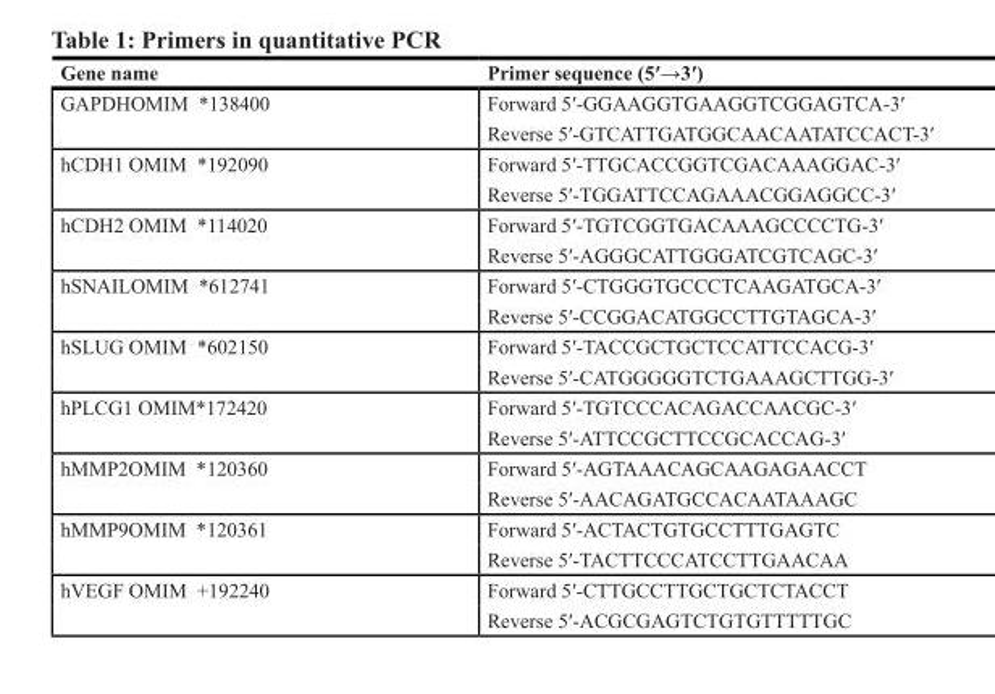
<table><thead><tr><td>Gene name</td><td>Primer sequence (5′→3′)</td></tr></thead><tbody><tr><td>GAPDHOMIM *138400</td><td>Forward 5′-GGAAGGTGAAGGTCGGAGTCA-3′ Reverse 5′-GTCATTGATGGCAACAATATCCACT-3′</td></tr><tr><td>hCDH1 OMIM *192090</td><td>Forward 5′-TTGCACCGGTCGACAAAGGAC-3′ Reverse 5′-TGGATTCCAGAAACGGAGGCC-3′</td></tr><tr><td>hCDH2 OMIM *114020</td><td>Forward 5′-TGTCGGTGACAAAGCCCCTG-3′ Reverse 5′-AGGGCATTGGGATCGTCAGC-3′</td></tr><tr><td>hSNAILOMIM *612741</td><td>Forward 5′-CTGGGTGCCCTCAAGATGCA-3′ Reverse 5′-CCGGACATGGCCTTGTAGCA-3′</td></tr><tr><td>hSLUG OMIM *602150</td><td>Forward 5′-TACCGCTGCTCCATTCCACG-3′ Reverse 5′-CATGGGGGTCTGAAAGCTTGG-3′</td></tr><tr><td>hPLCG1 OMIM*172420</td><td>Forward 5′-TGTCCCACAGACCAACGC-3′ Reverse 5′-ATTCCGCTTCCGCACCAG-3′</td></tr><tr><td>hMMP2OMIM *120360</td><td>Forward 5′-AGTAAACAGCAAGAGAACCT Reverse 5′-AACAGATGCCACAATAAAGC</td></tr><tr><td>hMMP9OMIM *120361</td><td>Forward 5′-ACTACTGTGCCTTTGAGTC Reverse 5′-TACTTCCCATCCTTGAACAA</td></tr><tr><td>hVEGF OMIM +192240</td><td>Forward 5′-CTTGCCTTGCTGCTCTACCT Reverse 5′-ACGCGAGTCTGTGTTTTTGC</td></tr></tbody></table>